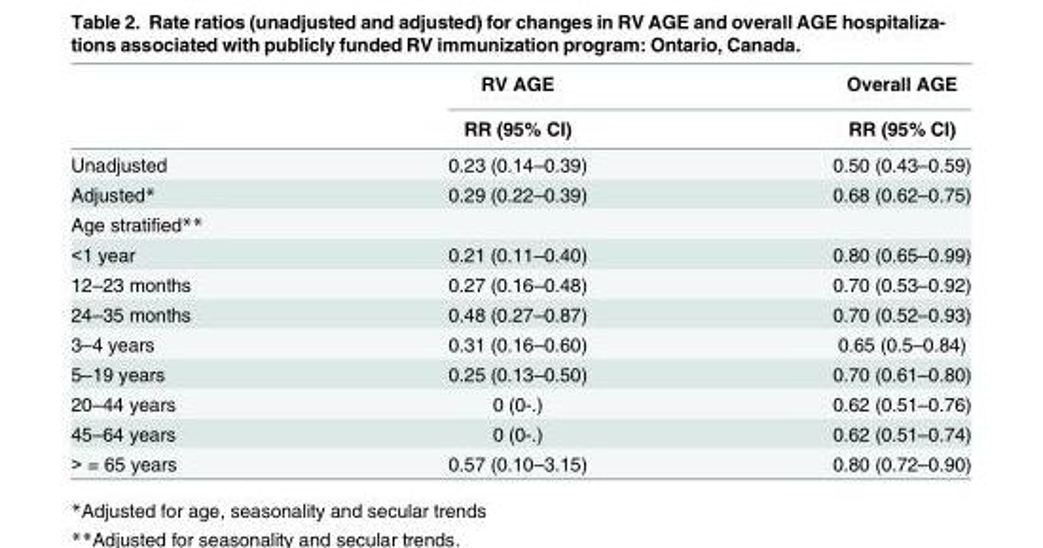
<table><thead><tr><td rowspan="2"></td><td rowspan="2">RV AGE RR (95% CI)</td><td rowspan="2">Overall AGE RR (95% CI)</td></tr><tr></tr></thead><tbody><tr><td>Unadjusted</td><td>0.23 (0.14–0.39)</td><td>0.50 (0.43–0.59)</td></tr><tr><td>Adjusted*</td><td>0.29 (0.22–0.39)</td><td>0.68 (0.62–0.75)</td></tr><tr><td colspan="3">Age stratified**</td></tr><tr><td>&lt;1 year</td><td>0.21 (0.11–0.40)</td><td>0.80 (0.65–0.99)</td></tr><tr><td>12–23 months</td><td>0.27 (0.16–0.48)</td><td>0.70 (0.53–0.92)</td></tr><tr><td>24–35 months</td><td>0.48 (0.27–0.87)</td><td>0.70 (0.52–0.93)</td></tr><tr><td>3–4 years</td><td>0.31 (0.16–0.60)</td><td>0.65 (0.5–0.84)</td></tr><tr><td>5–19 years</td><td>0.25 (0.13–0.50)</td><td>0.70 (0.61–0.80)</td></tr><tr><td>20–44 years</td><td>0 (0-.)</td><td>0.62 (0.51–0.76)</td></tr><tr><td>45–64 years</td><td>0 (0-.)</td><td>0.62 (0.51–0.74)</td></tr><tr><td>&gt; = 65 years</td><td>0.57 (0.10–3.15)</td><td>0.80 (0.72–0.90)</td></tr></tbody></table>